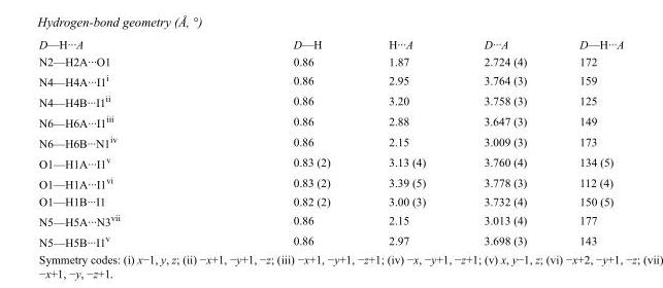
<table><tbody><tr><td>D—H···A</td><td>D—H</td><td>H···A</td><td>D···A</td><td>D—H···A</td></tr><tr><td>N2—H2A···O1</td><td>0.86</td><td>1.87</td><td>2.724 (4)</td><td>172</td></tr><tr><td>N4—H4A···I1<sup>i</sup></td><td>0.86</td><td>2.95</td><td>3.764 (3)</td><td>159</td></tr><tr><td>N4—H4B···I1<sup>ii</sup></td><td>0.86</td><td>3.20</td><td>3.758 (3)</td><td>125</td></tr><tr><td>N6—H6A···I1<sup>iii</sup></td><td>0.86</td><td>2.88</td><td>3.647 (3)</td><td>149</td></tr><tr><td>N6—H6B···N1<sup>iv</sup></td><td>0.86</td><td>2.15</td><td>3.009 (3)</td><td>173</td></tr><tr><td>O1—H1A···I1<sup>v</sup></td><td>0.83 (2)</td><td>3.13 (4)</td><td>3.760 (4)</td><td>134 (5)</td></tr><tr><td>O1—H1A···I1<sup>vi</sup></td><td>0.83 (2)</td><td>3.39 (5)</td><td>3.778 (3)</td><td>112 (4)</td></tr><tr><td>O1—H1B···I1</td><td>0.82 (2)</td><td>3.00 (3)</td><td>3.732 (4)</td><td>150 (5)</td></tr><tr><td>N5—H5A···N3<sup>vii</sup></td><td>0.86</td><td>2.15</td><td>3.013 (4)</td><td>177</td></tr><tr><td>N5—H5B···I1<sup>v</sup></td><td>0.86</td><td>2.97</td><td>3.698 (3)</td><td>143</td></tr></tbody></table>